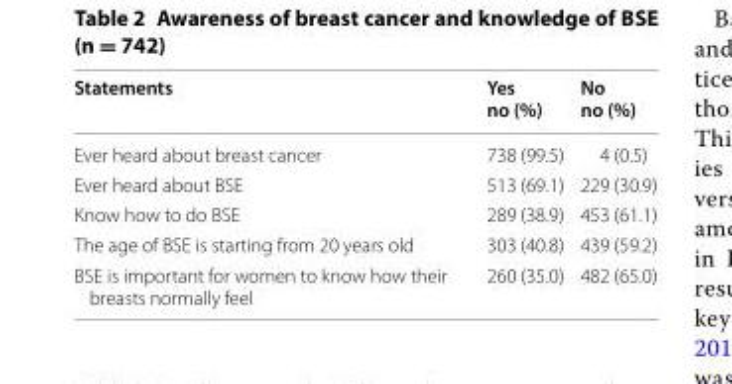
<table><thead><tr><td>Statements</td><td>Yes no (%)</td><td>No no (%)</td></tr></thead><tbody><tr><td>Ever heard about breast cancer</td><td>738 (99.5)</td><td>4 (0.5)</td></tr><tr><td>Ever heard about BSE</td><td>513 (69.1)</td><td>229 (30.9)</td></tr><tr><td>Know how to do BSE</td><td>289 (38.9)</td><td>453 (61.1)</td></tr><tr><td>The age of BSE is starting from 20 years old</td><td>303 (40.8)</td><td>439 (59.2)</td></tr><tr><td>BSE is important for women to know how their breasts normally feel</td><td>260 (35.0)</td><td>482 (65.0)</td></tr></tbody></table>